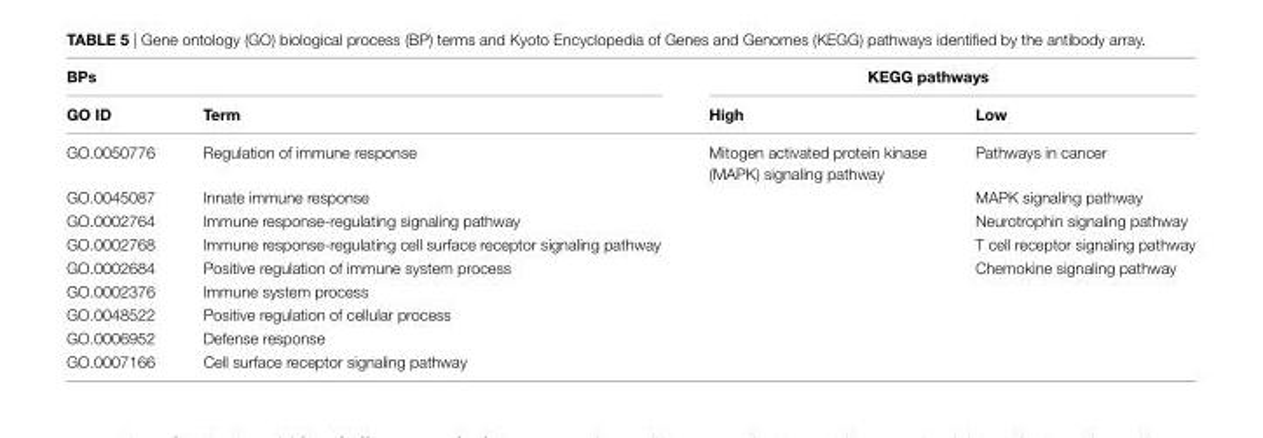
<table><thead><tr><td colspan="2">BPs</td><td colspan="2">Kegg pathways</td></tr><tr><td>gO iD</td><td>Term</td><td>high</td><td>low</td></tr></thead><tbody><tr><td>GO.0050776</td><td>Regulation of immune response</td><td>Mitogen activated protein kinase (MAPK) signaling pathway</td><td>Pathways in cancer</td></tr><tr><td>GO.0045087</td><td>Innate immune response</td><td></td><td>MAPK signaling pathway</td></tr><tr><td>GO.0002764</td><td>Immune response-regulating signaling pathway</td><td></td><td>Neurotrophin signaling pathway</td></tr><tr><td>GO.0002768</td><td>Immune response-regulating cell surface receptor signaling pathway</td><td></td><td>T cell receptor signaling pathway</td></tr><tr><td>GO.0002684</td><td>Positive regulation of immune system process</td><td></td><td>Chemokine signaling pathway</td></tr><tr><td>GO.0002376</td><td>Immune system process</td><td></td><td></td></tr><tr><td>GO.0048522</td><td>Positive regulation of cellular process</td><td></td><td></td></tr><tr><td>GO.0006952</td><td>Defense response</td><td></td><td></td></tr><tr><td>GO.0007166</td><td>Cell surface receptor signaling pathway</td><td></td><td></td></tr></tbody></table>